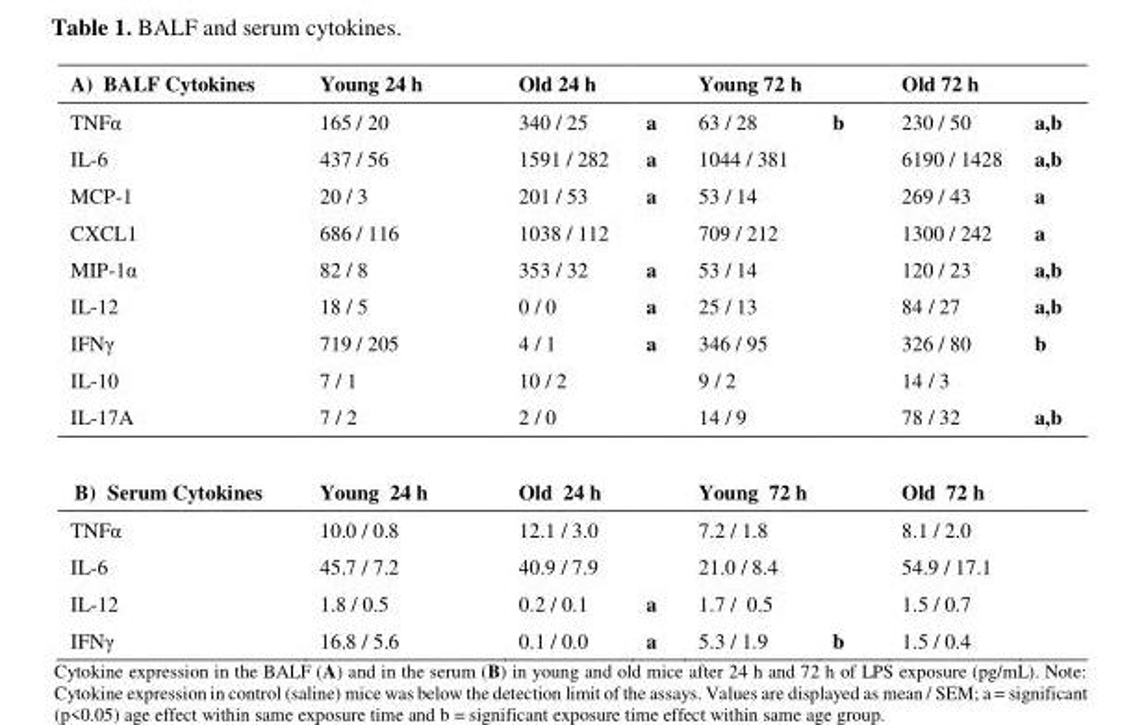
<table><thead><tr><td>A) BALF Cytokines</td><td>Young 24 h</td><td>Old 24 h</td><td></td><td>Young 72 h</td><td></td><td>Old 72 h</td><td></td></tr></thead><tbody><tr><td>TNFα</td><td>165 / 20</td><td>340 / 25</td><td>a</td><td>63 / 28</td><td>b</td><td>230 / 50</td><td>a,b</td></tr><tr><td>IL-6</td><td>437 / 56</td><td>1591 / 282</td><td>a</td><td>1044 / 381</td><td></td><td>6190 / 1428</td><td>a,b</td></tr><tr><td>MCP-1</td><td>20 / 3</td><td>201 / 53</td><td>a</td><td>53 / 14</td><td></td><td>269 / 43</td><td>a</td></tr><tr><td>CXCL1</td><td>686 / 116</td><td>1038 / 112</td><td></td><td>709 / 212</td><td></td><td>1300 / 242</td><td>a</td></tr><tr><td>MIP-1α</td><td>82 / 8</td><td>353 / 32</td><td>a</td><td>53 / 14</td><td></td><td>120 / 23</td><td>a,b</td></tr><tr><td>IL-12</td><td>18 / 5</td><td>0 / 0</td><td>a</td><td>25 / 13</td><td></td><td>84 / 27</td><td>a,b</td></tr><tr><td>IFNγ</td><td>719 / 205</td><td>4 / 1</td><td>a</td><td>346 / 95</td><td></td><td>326 / 80</td><td>b</td></tr><tr><td>IL-10</td><td>7 / 1</td><td>10 / 2</td><td></td><td>9 / 2</td><td></td><td>14 / 3</td><td></td></tr><tr><td>IL-17A</td><td>7 / 2</td><td>2 / 0</td><td></td><td>14 / 9</td><td></td><td>78 / 32</td><td>a,b</td></tr><tr><td>B) Serum Cytokines</td><td>Young 24 h</td><td>Old 24 h</td><td></td><td>Young 72 h</td><td></td><td>Old 72 h</td><td></td></tr><tr><td>TNFα</td><td>10.0 / 0.8</td><td>12.1 / 3.0</td><td></td><td>7.2 / 1.8</td><td></td><td>8.1 / 2.0</td><td></td></tr><tr><td>IL-6</td><td>45.7 / 7.2</td><td>40.9 / 7.9</td><td></td><td>21.0 / 8.4</td><td></td><td>54.9 / 17.1</td><td></td></tr><tr><td>IL-12</td><td>1.8 / 0.5</td><td>0.2 / 0.1</td><td>a</td><td>1.7 / 0.5</td><td></td><td>1.5 / 0.7</td><td></td></tr><tr><td>IFNγ</td><td>16.8 / 5.6</td><td>0.1 / 0.0</td><td>a</td><td>5.3 / 1.9</td><td>b</td><td>1.5 / 0.4</td><td></td></tr></tbody></table>